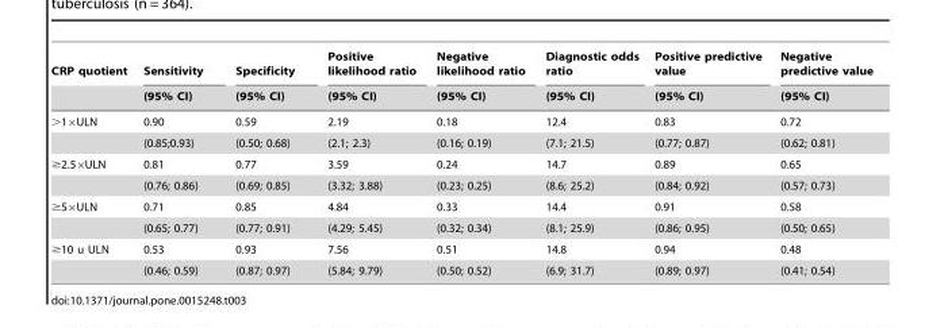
<table><thead><tr><td rowspan="2">CRP quotient</td><td rowspan="2">Sensitivity (95% CI)</td><td rowspan="2">Specificity (95% CI)</td><td rowspan="2">Positive likelihood ratio (95% CI)</td><td rowspan="2">Negative likelihood ratio (95% CI)</td><td rowspan="2">Diagnostic odds ratio (95% CI)</td><td rowspan="2">Positive predictive value (95% CI)</td><td rowspan="2">Negative predictive value (95% CI)</td></tr><tr></tr></thead><tbody><tr><td rowspan="2">&gt;1×ULN</td><td>0.90</td><td>0.59</td><td>2.19</td><td>0.18</td><td>12.4</td><td>0.83</td><td>0.72</td></tr><tr><td>(0.85;0.93)</td><td>(0.50; 0.68)</td><td>(2.1; 2.3)</td><td>(0.16; 0.19)</td><td>(7.1; 21.5)</td><td>(0.77; 0.87)</td><td>(0.62; 0.81)</td></tr><tr><td rowspan="2">≥2.5×ULN</td><td>0.81</td><td>0.77</td><td>3.59</td><td>0.24</td><td>14.7</td><td>0.89</td><td>0.65</td></tr><tr><td>(0.76; 0.86)</td><td>(0.69; 0.85)</td><td>(3.32; 3.88)</td><td>(0.23; 0.25)</td><td>(8.6; 25.2)</td><td>(0.84; 0.92)</td><td>(0.57; 0.73)</td></tr><tr><td rowspan="2">≥5×ULN</td><td>0.71</td><td>0.85</td><td>4.84</td><td>0.33</td><td>14.4</td><td>0.91</td><td>0.58</td></tr><tr><td>(0.65; 0.77)</td><td>(0.77; 0.91)</td><td>(4.29; 5.45)</td><td>(0.32; 0.34)</td><td>(8.1; 25.9)</td><td>(0.86; 0.95)</td><td>(0.50; 0.65)</td></tr><tr><td rowspan="2">≥10 u ULN</td><td>0.53</td><td>0.93</td><td>7.56</td><td>0.51</td><td>14.8</td><td>0.94</td><td>0.48</td></tr><tr><td>(0.46; 0.59)</td><td>(0.87; 0.97)</td><td>(5.84; 9.79)</td><td>(0.50; 0.52)</td><td>(6.9; 31.7)</td><td>(0.89; 0.97)</td><td>(0.41; 0.54)</td></tr></tbody></table>